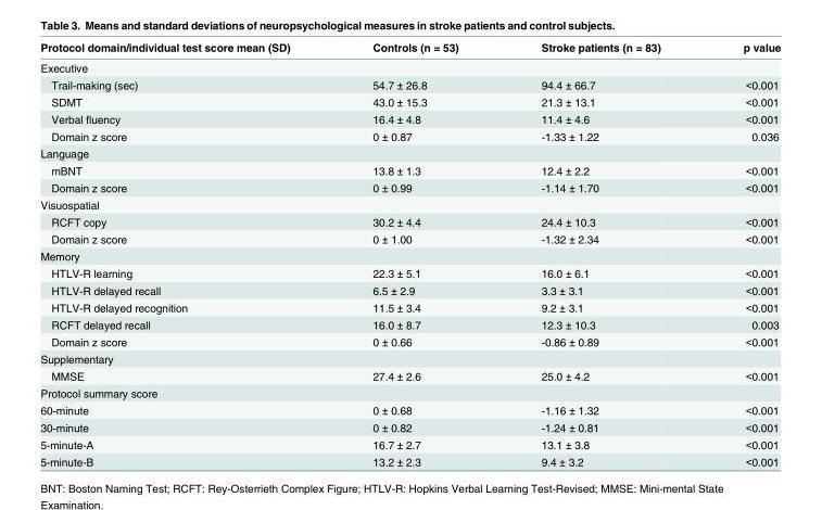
<table><thead><tr><td>Protocol domain/individual test score mean (SD)</td><td>Controls (n = 53)</td><td>Stroke patients (n = 83)</td><td>p value</td></tr></thead><tbody><tr><td colspan="4">Executive</td></tr><tr><td>Trail-making (sec)</td><td>54.7 ± 26.8</td><td>94.4 ± 66.7</td><td>&lt;0.001</td></tr><tr><td>SDMT</td><td>43.0 ± 15.3</td><td>21.3 ± 13.1</td><td>&lt;0.001</td></tr><tr><td>Verbal fluency</td><td>16.4 ± 4.8</td><td>11.4 ± 4.6</td><td>&lt;0.001</td></tr><tr><td>Domain z score</td><td>0 ± 0.87</td><td>-1.33 ± 1.22</td><td>0.036</td></tr><tr><td colspan="4">Language</td></tr><tr><td>mBNT</td><td>13.8 ± 1.3</td><td>12.4 ± 2.2</td><td>&lt;0.001</td></tr><tr><td>Domain z score</td><td>0 ± 0.99</td><td>-1.14 ± 1.70</td><td>&lt;0.001</td></tr><tr><td colspan="4">Visuospatial</td></tr><tr><td>RCFT copy</td><td>30.2 ± 4.4</td><td>24.4 ± 10.3</td><td>&lt;0.001</td></tr><tr><td>Domain z score</td><td>0 ± 1.00</td><td>-1.32 ± 2.34</td><td>&lt;0.001</td></tr><tr><td colspan="4">Memory</td></tr><tr><td>HTLV-R learning</td><td>22.3 ± 5.1</td><td>16.0 ± 6.1</td><td>&lt;0.001</td></tr><tr><td>HTLV-R delayed recall</td><td>6.5 ± 2.9</td><td>3.3 ± 3.1</td><td>&lt;0.001</td></tr><tr><td>HTLV-R delayed recognition</td><td>11.5 ± 3.4</td><td>9.2 ± 3.1</td><td>&lt;0.001</td></tr><tr><td>RCFT delayed recall</td><td>16.0 ± 8.7</td><td>12.3 ± 10.3</td><td>0.003</td></tr><tr><td>Domain z score</td><td>0 ± 0.66</td><td>-0.86 ± 0.89</td><td>&lt;0.001</td></tr><tr><td colspan="4">Supplementary</td></tr><tr><td>MMSE</td><td>27.4 ± 2.6</td><td>25.0 ± 4.2</td><td>&lt;0.001</td></tr><tr><td colspan="4">Protocol summary score</td></tr><tr><td>60-minute</td><td>0 ± 0.68</td><td>-1.16 ± 1.32</td><td>&lt;0.001</td></tr><tr><td>30-minute</td><td>0 ± 0.82</td><td>-1.24 ± 0.81</td><td>&lt;0.001</td></tr><tr><td>5-minute-A</td><td>16.7 ± 2.7</td><td>13.1 ± 3.8</td><td>&lt;0.001</td></tr><tr><td>5-minute-B</td><td>13.2 ± 2.3</td><td>9.4 ± 3.2</td><td>&lt;0.001</td></tr></tbody></table>